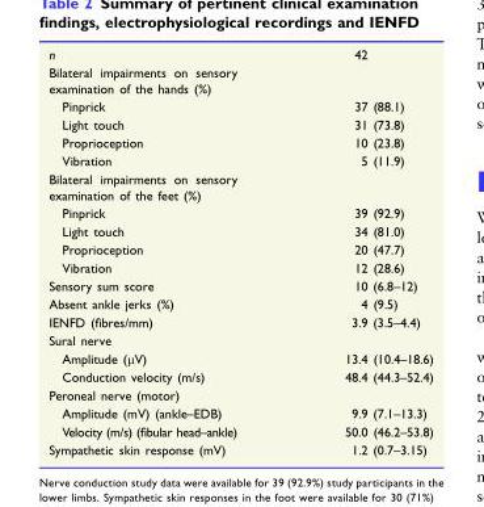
<table><tbody><tr><td>n</td><td>42</td></tr><tr><td colspan="2">Bilateral impairments on sensory examination of the hands (%)</td></tr><tr><td>Pinprick</td><td>37 (88.1)</td></tr><tr><td>Light touch</td><td>31 (73.8)</td></tr><tr><td>Proprioception</td><td>10 (23.8)</td></tr><tr><td>Vibration</td><td>5 (11.9)</td></tr><tr><td colspan="2">Bilateral impairments on sensory examination of the feet (%)</td></tr><tr><td>Pinprick</td><td>39 (92.9)</td></tr><tr><td>Light touch</td><td>34 (81.0)</td></tr><tr><td>Proprioception</td><td>20 (47.7)</td></tr><tr><td>Vibration</td><td>12 (28.6)</td></tr><tr><td>Sensory sum score</td><td>10 (6.8–12)</td></tr><tr><td>Absent ankle jerks (%)</td><td>4 (9.5)</td></tr><tr><td>IENFD (fibres/mm)</td><td>3.9 (3.5–4.4)</td></tr><tr><td colspan="2">Sural nerve</td></tr><tr><td>Amplitude (μV)</td><td>13.4 (10.4–18.6)</td></tr><tr><td>Conduction velocity (m/s)</td><td>48.4 (44.3–52.4)</td></tr><tr><td colspan="2">Peroneal nerve (motor)</td></tr><tr><td>Amplitude (mV) (ankle–EDB)</td><td>9.9 (7.1–13.3)</td></tr><tr><td>Velocity (m/s) (fibular head–ankle)</td><td>50.0 (46.2–53.8)</td></tr><tr><td>Sympathetic skin response (mV)</td><td>1.2 (0.7–3.15)</td></tr></tbody></table>